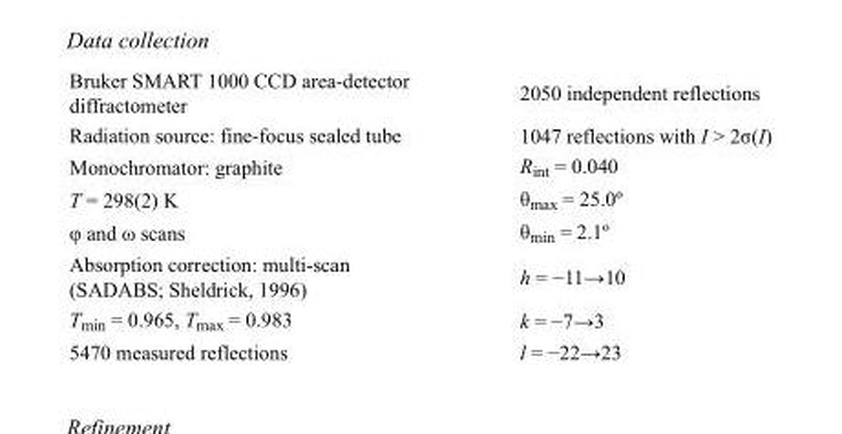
<table><tbody><tr><td>Bruker SMART 1000 CCD area-detector diffractometer</td><td>2050 independent reflections</td></tr><tr><td>Radiation source: fine-focus sealed tube</td><td>1047 reflections with I &gt; 2σ(I)</td></tr><tr><td>Monochromator: graphite</td><td>R<sub>int</sub> = 0.040</td></tr><tr><td>T = 298(2) K</td><td>θ<sub>max</sub> = 25.0º</td></tr><tr><td>φ and ω scans</td><td>θ<sub>min</sub> = 2.1º</td></tr><tr><td>Absorption correction: multi-scan (SADABS; Sheldrick, 1996)</td><td>h = −11→10</td></tr><tr><td>T<sub>min</sub> = 0.965, T<sub>max</sub> = 0.983</td><td>k = −7→3</td></tr><tr><td>5470 measured reflections</td><td>l = −22→23</td></tr></tbody></table>